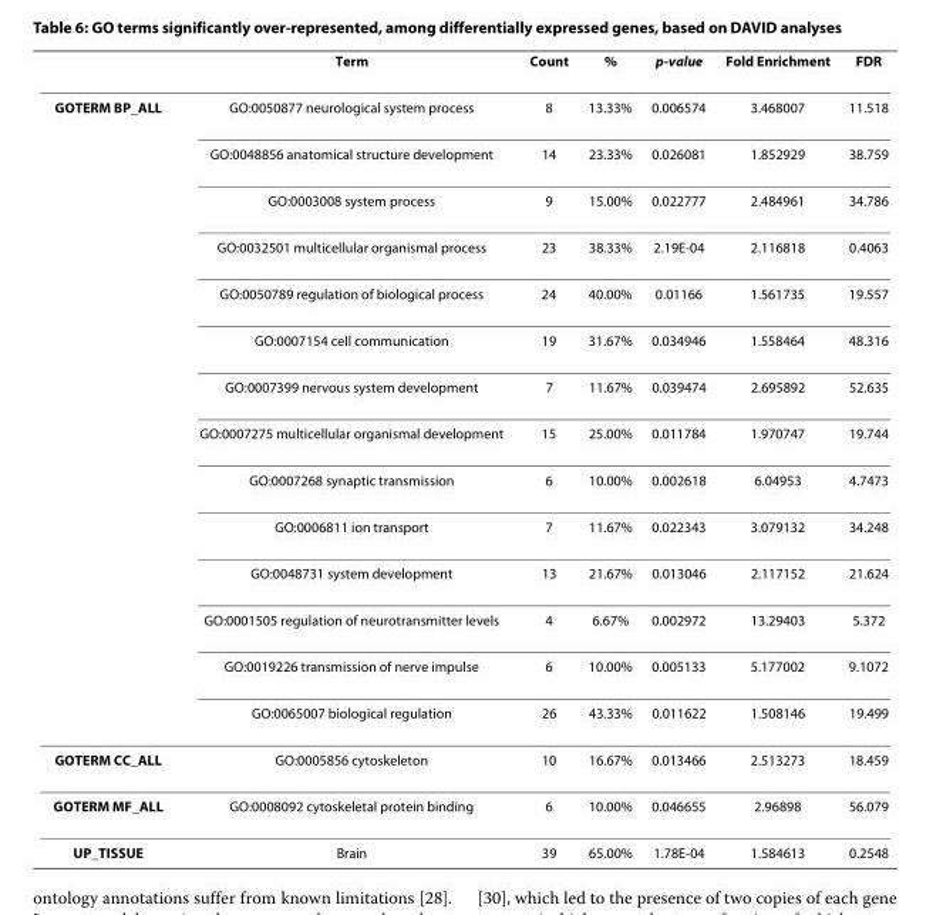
<table><thead><tr><td></td><td>Term</td><td>Count</td><td>%</td><td>p-value</td><td>Fold Enrichment</td><td>FDR</td></tr></thead><tbody><tr><td rowspan="14">GOTERM BP_ALL</td><td>GO:0050877 neurological system process</td><td>8</td><td>13.33%</td><td>0.006574</td><td>3.468007</td><td>11.518</td></tr><tr><td>GO:0048856 anatomical structure development</td><td>14</td><td>23.33%</td><td>0.026081</td><td>1.852929</td><td>38.759</td></tr><tr><td>GO:0003008 system process</td><td>9</td><td>15.00%</td><td>0.022777</td><td>2.484961</td><td>34.786</td></tr><tr><td>GO:0032501 multicellular organismal process</td><td>23</td><td>38.33%</td><td>2.19E-04</td><td>2.116818</td><td>0.4063</td></tr><tr><td>GO:0050789 regulation of biological process</td><td>24</td><td>40.00%</td><td>0.01166</td><td>1.561735</td><td>19.557</td></tr><tr><td>GO:0007154 cell communication</td><td>19</td><td>31.67%</td><td>0.034946</td><td>1.558464</td><td>48.316</td></tr><tr><td>GO:0007399 nervous system development</td><td>7</td><td>11.67%</td><td>0.039474</td><td>2.695892</td><td>52.635</td></tr><tr><td>GO:0007275 multicellular organismal development</td><td>15</td><td>25.00%</td><td>0.011784</td><td>1.970747</td><td>19.744</td></tr><tr><td>GO:0007268 synaptic transmission</td><td>6</td><td>10.00%</td><td>0.002618</td><td>6.04953</td><td>4.7473</td></tr><tr><td>GO:0006811 ion transport</td><td>7</td><td>11.67%</td><td>0.022343</td><td>3.079132</td><td>34.248</td></tr><tr><td>GO:0048731 system development</td><td>13</td><td>21.67%</td><td>0.013046</td><td>2.117152</td><td>21.624</td></tr><tr><td>GO:0001505 regulation of neurotransmitter levels</td><td>4</td><td>6.67%</td><td>0.002972</td><td>13.29403</td><td>5.372</td></tr><tr><td>GO:0019226 transmission of nerve impulse</td><td>6</td><td>10.00%</td><td>0.005133</td><td>5.177002</td><td>9.1072</td></tr><tr><td>GO:0065007 biological regulation</td><td>26</td><td>43.33%</td><td>0.011622</td><td>1.508146</td><td>19.499</td></tr><tr><td>GOTERM CC_ALL</td><td>GO:0005856 cytoskeleton</td><td>10</td><td>16.67%</td><td>0.013466</td><td>2.513273</td><td>18.459</td></tr><tr><td>GOTERM MF_ALL</td><td>GO:0008092 cytoskeletal protein binding</td><td>6</td><td>10.00%</td><td>0.046655</td><td>2.96898</td><td>56.079</td></tr><tr><td>UP_TISSUE</td><td>Brain</td><td>39</td><td>65.00%</td><td>1.78E-04</td><td>1.584613</td><td>0.2548</td></tr></tbody></table>